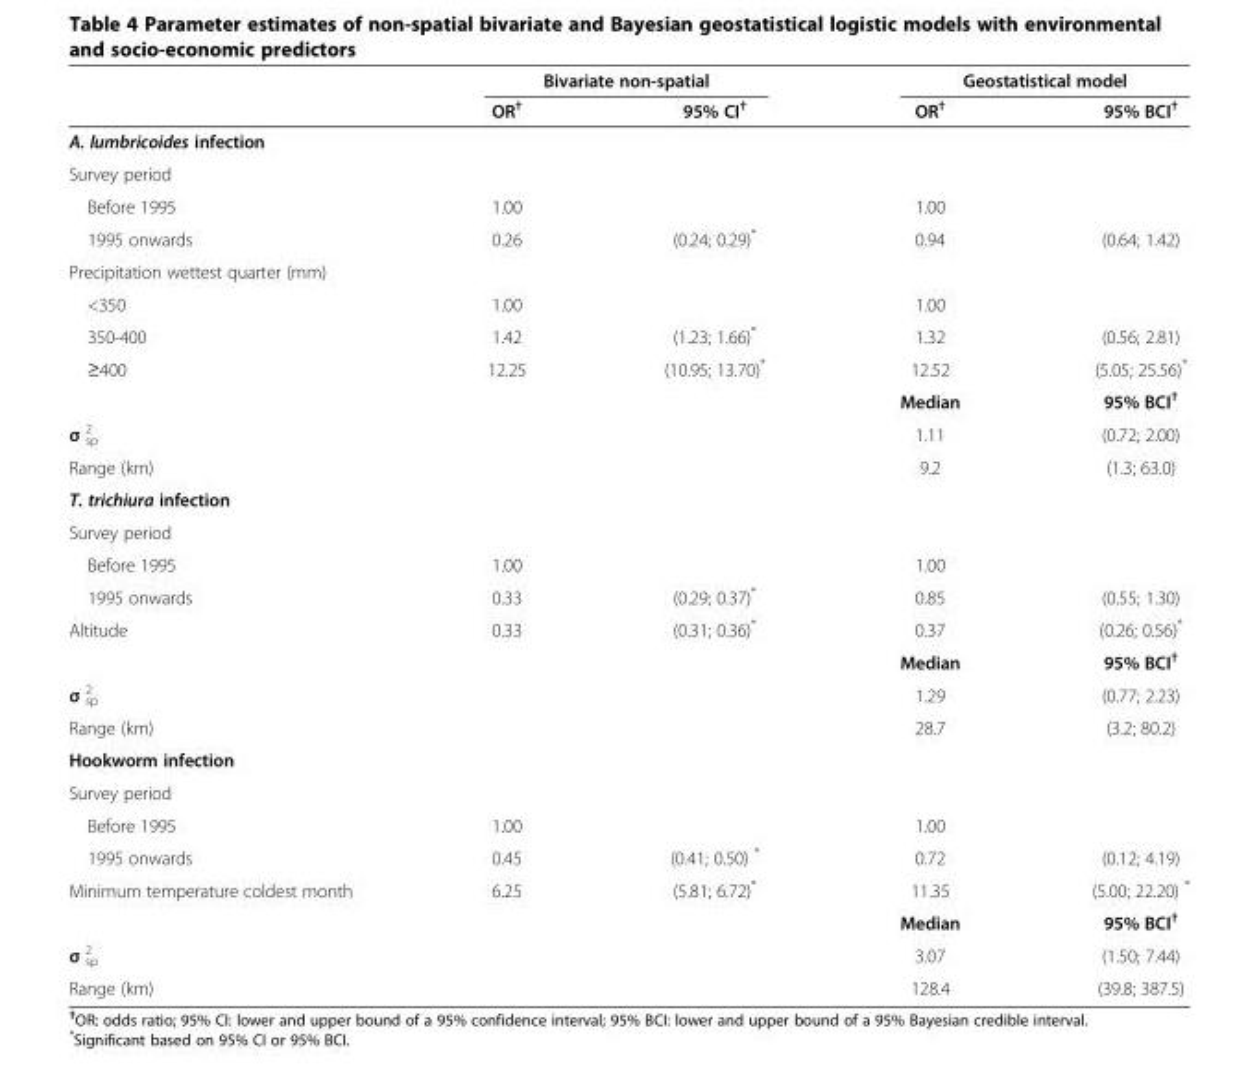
<table><thead><tr><td rowspan="2"></td><td colspan="2">Bivariate non-spatial</td><td colspan="2">Geostatistical model</td></tr><tr><td>OR<sup>†</sup></td><td>95% CI<sup>†</sup></td><td>OR<sup>†</sup></td><td>95% BCI<sup>†</sup></td></tr></thead><tbody><tr><td colspan="5">A. lumbricoides infection</td></tr><tr><td colspan="5">Survey period</td></tr><tr><td>Before 1995</td><td>1.00</td><td></td><td>1.00</td><td></td></tr><tr><td>1995 onwards</td><td>0.26</td><td>(0.24; 0.29)*</td><td>0.94</td><td>(0.64; 1.42)</td></tr><tr><td colspan="5">Precipitation wettest quarter (mm)</td></tr><tr><td>&lt;350</td><td>1.00</td><td></td><td>1.00</td><td></td></tr><tr><td>350-400</td><td>1.42</td><td>(1.23; 1.66)*</td><td>1.32</td><td>(0.56; 2.81)</td></tr><tr><td rowspan="2">≥400</td><td>12.25</td><td>(10.95; 13.70)*</td><td>12.52</td><td>(5.05; 25.56)*</td></tr><tr><td></td><td></td><td>Median</td><td>95% BCI<sup>†</sup></td></tr><tr><td>σ <sup>2</sup> <sub>sp</sub></td><td></td><td></td><td>1.11</td><td>(0.72; 2.00)</td></tr><tr><td>Range (km)</td><td></td><td></td><td>9.2</td><td>(1.3; 63.0)</td></tr><tr><td colspan="5">T. trichiura infection</td></tr><tr><td colspan="5">Survey period</td></tr><tr><td>Before 1995</td><td>1.00</td><td></td><td>1.00</td><td></td></tr><tr><td>1995 onwards</td><td>0.33</td><td>(0.29; 0.37)*</td><td>0.85</td><td>(0.55; 1.30)</td></tr><tr><td rowspan="2">Altitude</td><td>0.33</td><td>(0.31; 0.36)*</td><td>0.37</td><td>(0.26; 0.56)*</td></tr><tr><td></td><td></td><td>Median</td><td>95% BCI<sup>†</sup></td></tr><tr><td>σ <sup>2</sup> <sub>sp</sub></td><td></td><td></td><td>1.29</td><td>(0.77; 2.23)</td></tr><tr><td>Range (km)</td><td></td><td></td><td>28.7</td><td>(3.2; 80.2)</td></tr><tr><td colspan="5">Hookworm infection</td></tr><tr><td colspan="5">Survey period</td></tr><tr><td>Before 1995</td><td>1.00</td><td></td><td>1.00</td><td></td></tr><tr><td>1995 onwards</td><td>0.45</td><td>(0.41; 0.50) *</td><td>0.72</td><td>(0.12; 4.19)</td></tr><tr><td rowspan="2">Minimum temperature coldest month</td><td>6.25</td><td>(5.81; 6.72)*</td><td>11.35</td><td>(5.00; 22.20) *</td></tr><tr><td></td><td></td><td>Median</td><td>95% BCI<sup>†</sup></td></tr><tr><td>σ <sup>2</sup> <sub>sp</sub></td><td></td><td></td><td>3.07</td><td>(1.50; 7.44)</td></tr><tr><td>Range (km)</td><td></td><td></td><td>128.4</td><td>(39.8; 387.5)</td></tr></tbody></table>